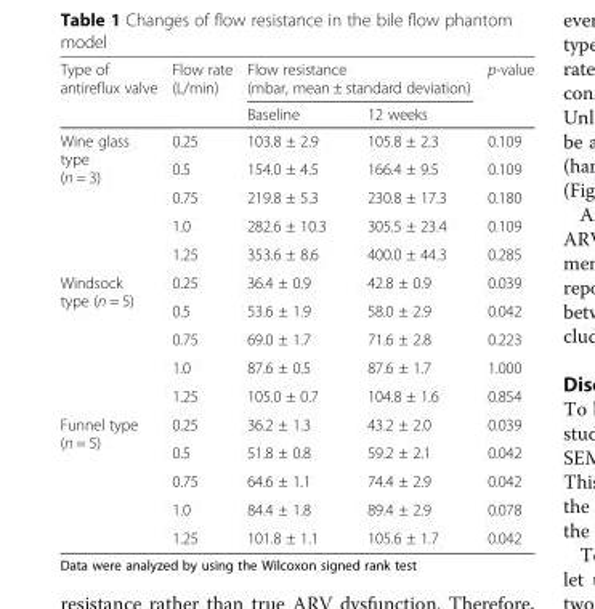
<table><thead><tr><td rowspan="2">Type of antireflux valve</td><td rowspan="2">Flow rate (L/min)</td><td colspan="2">Flow resistance (mbar, mean ± standard deviation)</td><td rowspan="2">p-value</td></tr><tr><td>Baseline</td><td>12 weeks</td></tr></thead><tbody><tr><td rowspan="5">Wine glass type (n = 3)</td><td>0.25</td><td>103.8 ± 2.9</td><td>105.8 ± 2.3</td><td>0.109</td></tr><tr><td>0.5</td><td>154.0 ± 4.5</td><td>166.4 ± 9.5</td><td>0.109</td></tr><tr><td>0.75</td><td>219.8 ± 5.3</td><td>230.8 ± 17.3</td><td>0.180</td></tr><tr><td>1.0</td><td>282.6 ± 10.3</td><td>305.5 ± 23.4</td><td>0.109</td></tr><tr><td>1.25</td><td>353.6 ± 8.6</td><td>400.0 ± 44.3</td><td>0.285</td></tr><tr><td rowspan="5">Windsock type (n = 5)</td><td>0.25</td><td>36.4 ± 0.9</td><td>42.8 ± 0.9</td><td>0.039</td></tr><tr><td>0.5</td><td>53.6 ± 1.9</td><td>58.0 ± 2.9</td><td>0.042</td></tr><tr><td>0.75</td><td>69.0 ± 1.7</td><td>71.6 ± 2.8</td><td>0.223</td></tr><tr><td>1.0</td><td>87.6 ± 0.5</td><td>87.6 ± 1.7</td><td>1.000</td></tr><tr><td>1.25</td><td>105.0 ± 0.7</td><td>104.8 ± 1.6</td><td>0.854</td></tr><tr><td rowspan="5">Funnel type (n = 5)</td><td>0.25</td><td>36.2 ± 1.3</td><td>43.2 ± 2.0</td><td>0.039</td></tr><tr><td>0.5</td><td>51.8 ± 0.8</td><td>59.2 ± 2.1</td><td>0.042</td></tr><tr><td>0.75</td><td>64.6 ± 1.1</td><td>74.4 ± 2.9</td><td>0.042</td></tr><tr><td>1.0</td><td>84.4 ± 1.8</td><td>89.4 ± 2.9</td><td>0.078</td></tr><tr><td>1.25</td><td>101.8 ± 1.1</td><td>105.6 ± 1.7</td><td>0.042</td></tr></tbody></table>